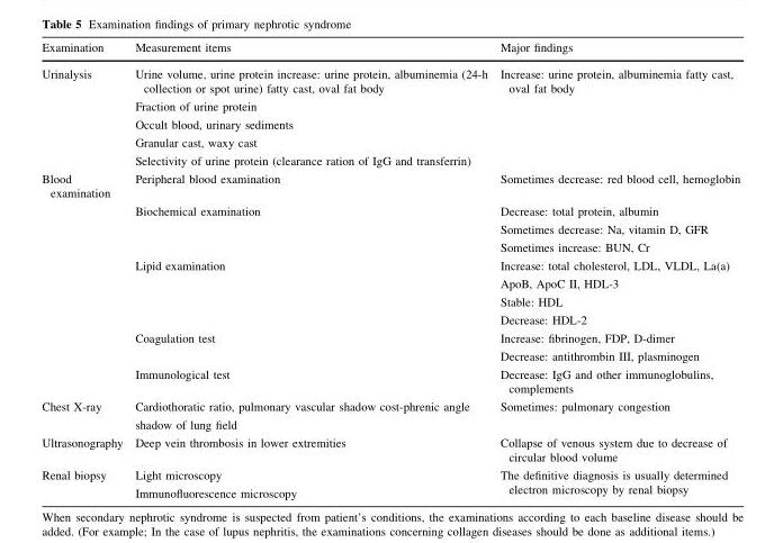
<table><thead><tr><td>Examination</td><td>Measurement items</td><td>Major findings</td></tr></thead><tbody><tr><td>Urinalysis</td><td>Urine volume, urine protein increase: urine protein, albuminemia (24-h collection or spot urine) fatty cast, oval fat body Fraction of urine protein Occult blood, urinary sediments Granular cast, waxy cast Selectivity of urine protein (clearance ration of IgG and transferrin)</td><td>Increase: urine protein, albuminemia fatty cast, oval fat body</td></tr><tr><td rowspan="5">Blood examination</td><td>Peripheral blood examination</td><td>Sometimes decrease: red blood cell, hemoglobin</td></tr><tr><td>Biochemical examination</td><td>Decrease: total protein, albumin Sometimes decrease: Na, vitamin D, GFR Sometimes increase: BUN, Cr</td></tr><tr><td>Lipid examination</td><td>Increase: total cholesterol, LDL, VLDL, La(a) ApoB, ApoC II, HDL-3 Stable: HDL Decrease: HDL-2</td></tr><tr><td>Coagulation test</td><td>Increase: fibrinogen, FDP, D-dimer Decrease: antithrombin III, plasminogen</td></tr><tr><td>Immunological test</td><td>Decrease: IgG and other immunoglobulins, complements</td></tr><tr><td>Chest X-ray</td><td>Cardiothoratic ratio, pulmonary vascular shadow cost-phrenic angle shadow of lung field</td><td>Sometimes: pulmonary congestion</td></tr><tr><td>Ultrasonography</td><td>Deep vein thrombosis in lower extremities</td><td>Collapse of venous system due to decrease of circular blood volume</td></tr><tr><td>Renal biopsy</td><td>Light microscopy Immunofluorescence microscopy</td><td>The definitive diagnosis is usually determined electron microscopy by renal biopsy</td></tr></tbody></table>